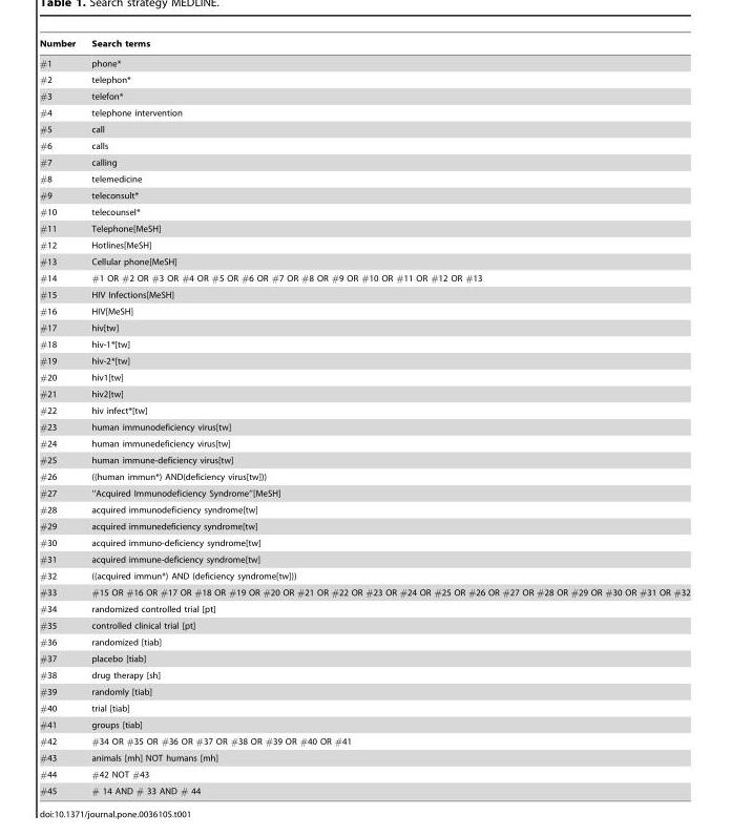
<table><thead><tr><td>Number</td><td>Search terms</td></tr></thead><tbody><tr><td>#1</td><td>phone*</td></tr><tr><td>#2</td><td>telephon*</td></tr><tr><td>#3</td><td>telefon*</td></tr><tr><td>#4</td><td>telephone intervention</td></tr><tr><td>#5</td><td>call</td></tr><tr><td>#6</td><td>calls</td></tr><tr><td>#7</td><td>calling</td></tr><tr><td>#8</td><td>telemedicine</td></tr><tr><td>#9</td><td>teleconsult*</td></tr><tr><td>#10</td><td>telecounsel*</td></tr><tr><td>#11</td><td>Telephone[MeSH]</td></tr><tr><td>#12</td><td>Hotlines[MeSH]</td></tr><tr><td>#13</td><td>Cellular phone[MeSH]</td></tr><tr><td>#14</td><td>#1 OR #2 OR #3 OR #4 OR #5 OR #6 OR #7 OR #8 OR #9 OR #10 OR #11 OR #12 OR #13</td></tr><tr><td>#15</td><td>HIV Infections[MeSH]</td></tr><tr><td>#16</td><td>HIV[MeSH]</td></tr><tr><td>#17</td><td>hiv[tw]</td></tr><tr><td>#18</td><td>hiv-1*[tw]</td></tr><tr><td>#19</td><td>hiv-2*[tw]</td></tr><tr><td>#20</td><td>hiv1[tw]</td></tr><tr><td>#21</td><td>hiv2[tw]</td></tr><tr><td>#22</td><td>hiv infect*[tw]</td></tr><tr><td>#23</td><td>human immunodeficiency virus[tw]</td></tr><tr><td>#24</td><td>human immunedeficiency virus[tw]</td></tr><tr><td>#25</td><td>human immune-deficiency virus[tw]</td></tr><tr><td>#26</td><td>((human immun*) AND(deficiency virus[tw]))</td></tr><tr><td>#27</td><td>‘‘Acquired Immunodeficiency Syndrome’’[MeSH]</td></tr><tr><td>#28</td><td>acquired immunodeficiency syndrome[tw]</td></tr><tr><td>#29</td><td>acquired immunedeficiency syndrome[tw]</td></tr><tr><td>#30</td><td>acquired immuno-deficiency syndrome[tw]</td></tr><tr><td>#31</td><td>acquired immune-deficiency syndrome[tw]</td></tr><tr><td>#32</td><td>((acquired immun*) AND (deficiency syndrome[tw]))</td></tr><tr><td>#33</td><td>#15 OR #16 OR #17 OR #18 OR #19 OR #20 OR #21 OR #22 OR #23 OR #24 OR #25 OR #26 OR #27 OR #28 OR #29 OR #30 OR #31 OR #32</td></tr><tr><td>#34</td><td>randomized controlled trial [pt]</td></tr><tr><td>#35</td><td>controlled clinical trial [pt]</td></tr><tr><td>#36</td><td>randomized [tiab]</td></tr><tr><td>#37</td><td>placebo [tiab]</td></tr><tr><td>#38</td><td>drug therapy [sh]</td></tr><tr><td>#39</td><td>randomly [tiab]</td></tr><tr><td>#40</td><td>trial [tiab]</td></tr><tr><td>#41</td><td>groups [tiab]</td></tr><tr><td>#42</td><td>#34 OR #35 OR #36 OR #37 OR #38 OR #39 OR #40 OR #41</td></tr><tr><td>#43</td><td>animals [mh] NOT humans [mh]</td></tr><tr><td>#44</td><td>#42 NOT #43</td></tr><tr><td>#45</td><td># 14 AND # 33 AND # 44</td></tr></tbody></table>